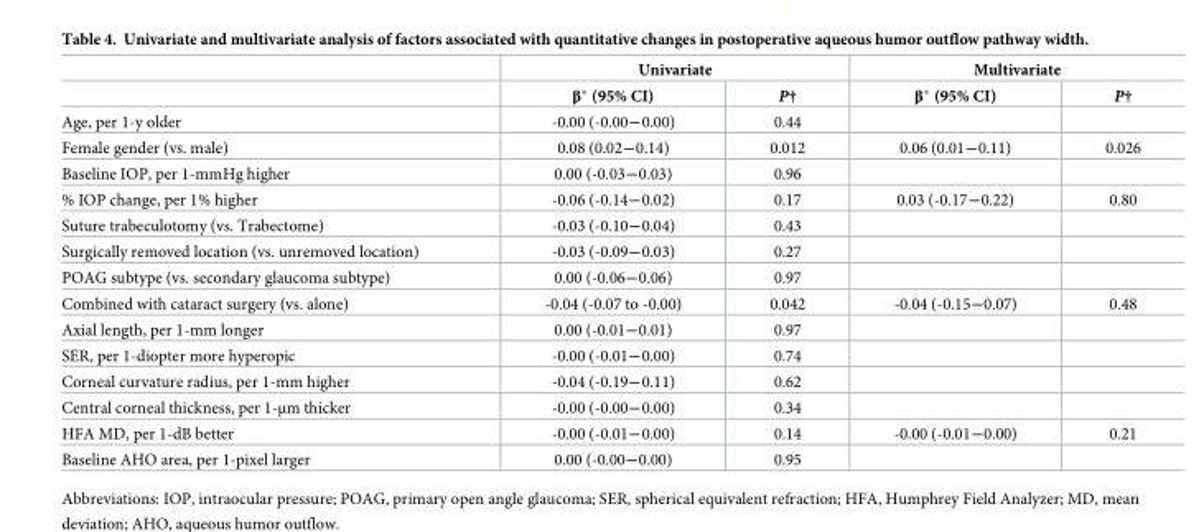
<table><thead><tr><td rowspan="2"></td><td colspan="2">Univariate</td><td colspan="2">Multivariate</td></tr><tr><td>β* (95% CI)</td><td>P†</td><td>β* (95% CI)</td><td>P†</td></tr></thead><tbody><tr><td>Age, per 1-y older</td><td>-0.00 (-0.00―0.00)</td><td>0.44</td><td></td><td></td></tr><tr><td>Female gender (vs. male)</td><td>0.08 (0.02―0.14)</td><td>0.012</td><td>0.06 (0.01―0.11)</td><td>0.026</td></tr><tr><td>Baseline IOP, per 1-mmHg higher</td><td>0.00 (-0.03―0.03)</td><td>0.96</td><td></td><td></td></tr><tr><td>% IOP change, per 1% higher</td><td>-0.06 (-0.14―0.02)</td><td>0.17</td><td>0.03 (-0.17―0.22)</td><td>0.80</td></tr><tr><td>Suture trabeculotomy (vs. Trabectome)</td><td>-0.03 (-0.10―0.04)</td><td>0.43</td><td></td><td></td></tr><tr><td>Surgically removed location (vs. unremoved location)</td><td>-0.03 (-0.09―0.03)</td><td>0.27</td><td></td><td></td></tr><tr><td>POAG subtype (vs. secondary glaucoma subtype)</td><td>0.00 (-0.06―0.06)</td><td>0.97</td><td></td><td></td></tr><tr><td>Combined with cataract surgery (vs. alone)</td><td>-0.04 (-0.07 to -0.00)</td><td>0.042</td><td>-0.04 (-0.15―0.07)</td><td>0.48</td></tr><tr><td>Axial length, per 1-mm longer</td><td>0.00 (-0.01―0.01)</td><td>0.97</td><td></td><td></td></tr><tr><td>SER, per 1-diopter more hyperopic</td><td>-0.00 (-0.01―0.00)</td><td>0.74</td><td></td><td></td></tr><tr><td>Corneal curvature radius, per 1-mm higher</td><td>-0.04 (-0.19―0.11)</td><td>0.62</td><td></td><td></td></tr><tr><td>Central corneal thickness, per 1-μm thicker</td><td>-0.00 (-0.00―0.00)</td><td>0.34</td><td></td><td></td></tr><tr><td>HFA MD, per 1-dB better</td><td>-0.00 (-0.01―0.00)</td><td>0.14</td><td>-0.00 (-0.01―0.00)</td><td>0.21</td></tr><tr><td>Baseline AHO area, per 1-pixel larger</td><td>0.00 (-0.00―0.00)</td><td>0.95</td><td></td><td></td></tr></tbody></table>